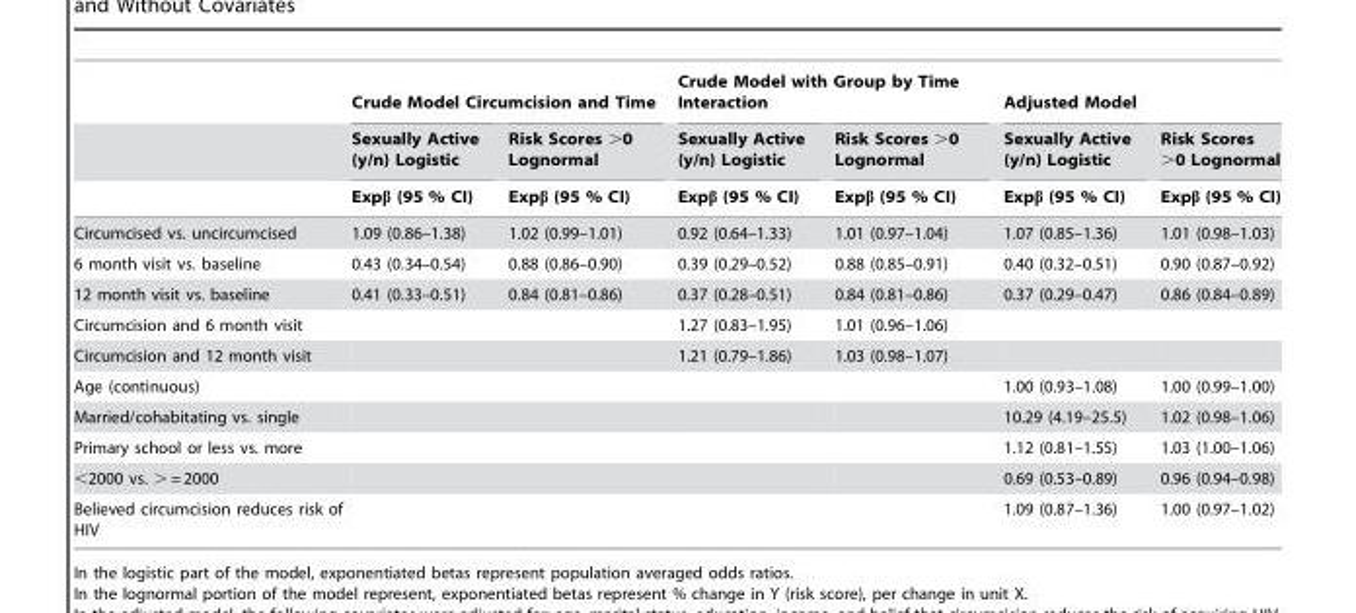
<table><thead><tr><td rowspan="3"></td><td colspan="2">Crude Model Circumcision and Time</td><td colspan="2">Crude Model with Group by Time Interaction</td><td colspan="2">Adjusted Model</td></tr><tr><td rowspan="2">Sexually Active (y/n) Logistic Expβ (95 % CI)</td><td rowspan="2">Risk Scores &gt;0 Lognormal Expβ (95 % CI)</td><td rowspan="2">Sexually Active (y/n) Logistic Expβ (95 % CI)</td><td rowspan="2">Risk Scores &gt;0 Lognormal Expβ (95 % CI)</td><td rowspan="2">Sexually Active (y/n) Logistic Expβ (95 % CI)</td><td rowspan="2">Risk Scores &gt;0 Lognormal Expβ (95 % CI)</td></tr><tr></tr></thead><tbody><tr><td>Circumcised vs. uncircumcised</td><td>1.09 (0.86–1.38)</td><td>1.02 (0.99–1.01)</td><td>0.92 (0.64–1.33)</td><td>1.01 (0.97–1.04)</td><td>1.07 (0.85–1.36)</td><td>1.01 (0.98–1.03)</td></tr><tr><td>6 month visit vs. baseline</td><td>0.43 (0.34–0.54)</td><td>0.88 (0.86–0.90)</td><td>0.39 (0.29–0.52)</td><td>0.88 (0.85–0.91)</td><td>0.40 (0.32–0.51)</td><td>0.90 (0.87–0.92)</td></tr><tr><td>12 month visit vs. baseline</td><td>0.41 (0.33–0.51)</td><td>0.84 (0.81–0.86)</td><td>0.37 (0.28–0.51)</td><td>0.84 (0.81–0.86)</td><td>0.37 (0.29–0.47)</td><td>0.86 (0.84–0.89)</td></tr><tr><td>Circumcision and 6 month visit</td><td></td><td></td><td>1.27 (0.83–1.95)</td><td>1.01 (0.96–1.06)</td><td></td><td></td></tr><tr><td>Circumcision and 12 month visit</td><td></td><td></td><td>1.21 (0.79–1.86)</td><td>1.03 (0.98–1.07)</td><td></td><td></td></tr><tr><td>Age (continuous)</td><td></td><td></td><td></td><td></td><td>1.00 (0.93–1.08)</td><td>1.00 (0.99–1.00)</td></tr><tr><td>Married/cohabitating vs. single</td><td></td><td></td><td></td><td></td><td>10.29 (4.19–25.5)</td><td>1.02 (0.98–1.06)</td></tr><tr><td>Primary school or less vs. more</td><td></td><td></td><td></td><td></td><td>1.12 (0.81–1.55)</td><td>1.03 (1.00–1.06)</td></tr><tr><td>&lt;2000 vs. &gt; = 2000</td><td></td><td></td><td></td><td></td><td>0.69 (0.53–0.89)</td><td>0.96 (0.94–0.98)</td></tr><tr><td>Believed circumcision reduces risk of HIV</td><td></td><td></td><td></td><td></td><td>1.09 (0.87–1.36)</td><td>1.00 (0.97–1.02)</td></tr></tbody></table>